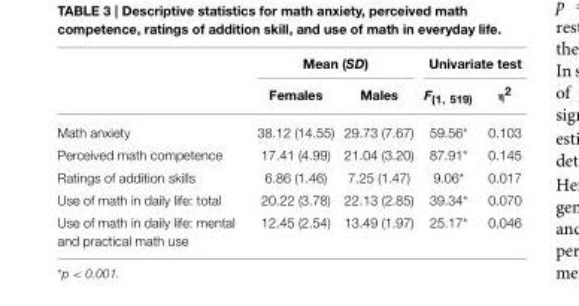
<table><thead><tr><td rowspan="2"></td><td colspan="2">Mean (SD)</td><td colspan="2">Univariate test</td></tr><tr><td>Females</td><td>Males</td><td>F<sub>(1, 519)</sub></td><td>η<sup>2</sup></td></tr></thead><tbody><tr><td>Math anxiety</td><td>38.12 (14.55)</td><td>29.73 (7.67)</td><td>59.56*</td><td>0.103</td></tr><tr><td>Perceived math competence</td><td>17.41 (4.99)</td><td>21.04 (3.20)</td><td>87.91*</td><td>0.145</td></tr><tr><td>Ratings of addition skills</td><td>6.86 (1.46)</td><td>7.25 (1.47)</td><td>9.06*</td><td>0.017</td></tr><tr><td>Use of math in daily life: total</td><td>20.22 (3.78)</td><td>22.13 (2.85)</td><td>39.34*</td><td>0.070</td></tr><tr><td>Use of math in daily life: mental and practical math use</td><td>12.45 (2.54)</td><td>13.49 (1.97)</td><td>25.17*</td><td>0.046</td></tr></tbody></table>